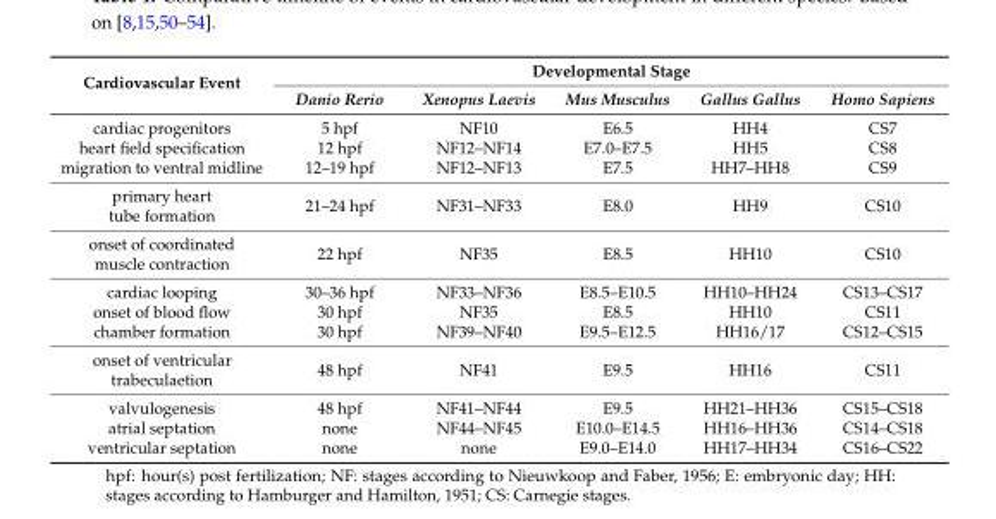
<table><thead><tr><td rowspan="2">Cardiovascular Event</td><td colspan="5">Developmental Stage</td></tr><tr><td>Danio Rerio</td><td>Xenopus Laevis</td><td>Mus Musculus</td><td>Gallus Gallus</td><td>Homo Sapiens</td></tr></thead><tbody><tr><td>cardiac progenitors</td><td>5 hpf</td><td>NF10</td><td>E6.5</td><td>HH4</td><td>CS7</td></tr><tr><td>heart field specification</td><td>12 hpf</td><td>NF12–NF14</td><td>E7.0–E7.5</td><td>HH5</td><td>CS8</td></tr><tr><td>migration to ventral midline</td><td>12–19 hpf</td><td>NF12–NF13</td><td>E7.5</td><td>HH7–HH8</td><td>CS9</td></tr><tr><td>primary heart tube formation</td><td>21–24 hpf</td><td>NF31–NF33</td><td>E8.0</td><td>HH9</td><td>CS10</td></tr><tr><td>onset of coordinated muscle contraction</td><td>22 hpf</td><td>NF35</td><td>E8.5</td><td>HH10</td><td>CS10</td></tr><tr><td>cardiac looping</td><td>30–36 hpf</td><td>NF33–NF36</td><td>E8.5–E10.5</td><td>HH10–HH24</td><td>CS13–CS17</td></tr><tr><td>onset of blood flow</td><td>30 hpf</td><td>NF35</td><td>E8.5</td><td>HH10</td><td>CS11</td></tr><tr><td>chamber formation</td><td>30 hpf</td><td>NF39–NF40</td><td>E9.5–E12.5</td><td>HH16/17</td><td>CS12–CS15</td></tr><tr><td>onset of ventricular trabeculaetion</td><td>48 hpf</td><td>NF41</td><td>E9.5</td><td>HH16</td><td>CS11</td></tr><tr><td>valvulogenesis</td><td>48 hpf</td><td>NF41–NF44</td><td>E9.5</td><td>HH21–HH36</td><td>CS15–CS18</td></tr><tr><td>atrial septation</td><td>none</td><td>NF44–NF45</td><td>E10.0–E14.5</td><td>HH16–HH36</td><td>CS14–CS18</td></tr><tr><td>ventricular septation</td><td>none</td><td>none</td><td>E9.0–E14.0</td><td>HH17–HH34</td><td>CS16–CS22</td></tr></tbody></table>